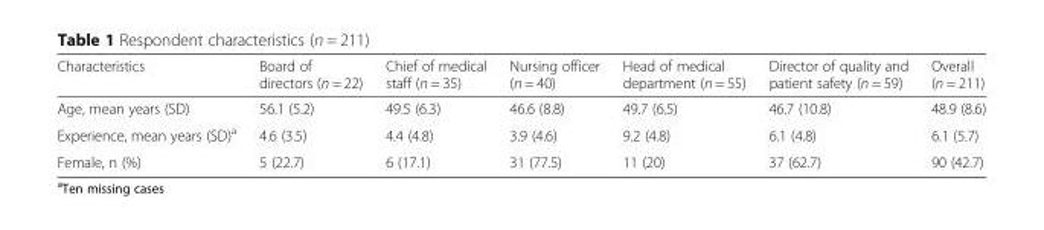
<table><thead><tr><td>Characteristics</td><td>Board of directors (n = 22)</td><td>Chief of medical staff (n = 35)</td><td>Nursing officer (n = 40)</td><td>Head of medical department (n = 55)</td><td>Director of quality and patient safety (n = 59)</td><td>Overall (n = 211)</td></tr></thead><tbody><tr><td>Age, mean years (SD)</td><td>56.1 (5.2)</td><td>49.5 (6.3)</td><td>46.6 (8.8)</td><td>49.7 (6.5)</td><td>46.7 (10.8)</td><td>48.9 (8.6)</td></tr><tr><td>Experience, mean years (SD)<sup>a</sup></td><td>4.6 (3.5)</td><td>4.4 (4.8)</td><td>3.9 (4.6)</td><td>9.2 (4.8)</td><td>6.1 (4.8)</td><td>6.1 (5.7)</td></tr><tr><td>Female, n (%)</td><td>5 (22.7)</td><td>6 (17.1)</td><td>31 (77.5)</td><td>11 (20)</td><td>37 (62.7)</td><td>90 (42.7)</td></tr></tbody></table>